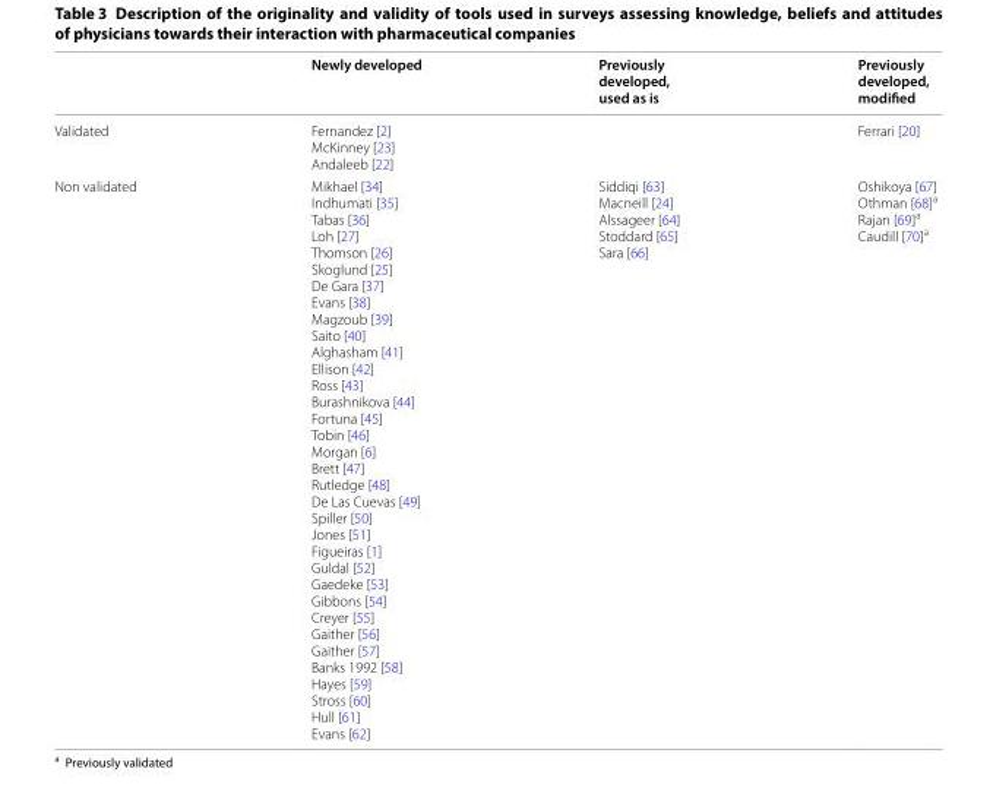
<table><thead><tr><td></td><td>Newly developed</td><td>Previously developed, used as is</td><td>Previously developed, modified</td></tr></thead><tbody><tr><td>Validated</td><td>Fernandez [2] McKinney [23] Andaleeb [22]</td><td></td><td>Ferrari [20]</td></tr><tr><td>Non validated</td><td>Mikhael [34] Indhumati [35] Tabas [36] Loh [27] Thomson [26] Skoglund [25] De Gara [37] Evans [38] Magzoub [39] Saito [40] Alghasham [41] Ellison [42] Ross [43] Burashnikova [44] Fortuna [45] Tobin [46] Morgan [6] Brett [47] Rutledge [48] De Las Cuevas [49] Spiller [50] Jones [51] Figueiras [1] Guldal [52] Gaedeke [53] Gibbons [54] Creyer [55] Gaither [56] Gaither [57] Banks 1992 [58] Hayes [59] Stross [60] Hull [61] Evans [62]</td><td>Siddiqi [63] Macneill [24] Alssageer [64] Stoddard [65] Sara [66]</td><td>Oshikoya [67] Othman [68]<sup>a</sup> Rajan [69]<sup>a</sup> Caudill [70]<sup>a</sup></td></tr></tbody></table>